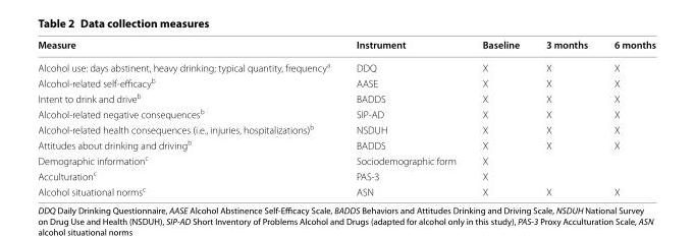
<table><thead><tr><td>Measure</td><td>Instrument</td><td>Baseline</td><td>3 months</td><td>6 months</td></tr></thead><tbody><tr><td>Alcohol use: days abstinent, heavy drinking; typical quantity, frequency<sup>a</sup></td><td>DDQ</td><td>X</td><td>X</td><td>X</td></tr><tr><td>Alcohol‑related self‑efficacy<sup>b</sup></td><td>AASE</td><td>X</td><td>X</td><td>X</td></tr><tr><td>Intent to drink and drive<sup>b</sup></td><td>BADDS</td><td>X</td><td>X</td><td>X</td></tr><tr><td>Alcohol‑related negative consequences<sup>b</sup></td><td>SIP‑AD</td><td>X</td><td>X</td><td>X</td></tr><tr><td>Alcohol‑related health consequences (i.e., injuries, hospitalizations)<sup>b</sup></td><td>NSDUH</td><td>X</td><td>X</td><td>X</td></tr><tr><td>Attitudes about drinking and driving<sup>b</sup></td><td>BADDS</td><td>X</td><td>X</td><td>X</td></tr><tr><td>Demographic information<sup>c</sup></td><td>Sociodemographic form</td><td>X</td><td></td><td></td></tr><tr><td>Acculturation<sup>c</sup></td><td>PAS‑3</td><td>X</td><td></td><td></td></tr><tr><td>Alcohol situational norms<sup>c</sup></td><td>ASN</td><td>X</td><td>X</td><td>X</td></tr></tbody></table>